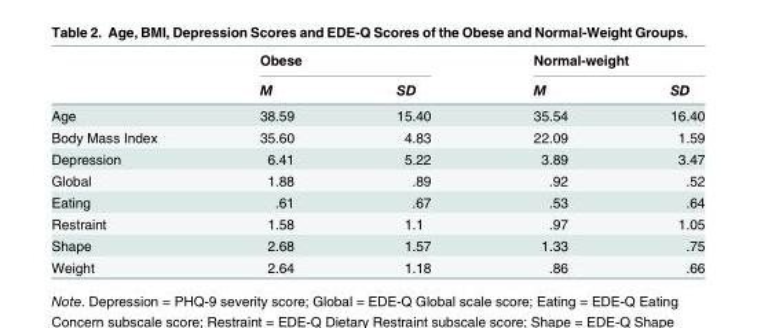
<table><thead><tr><td rowspan="2"></td><td colspan="2">Obese</td><td colspan="2">Normal-weight</td></tr><tr><td>M</td><td>SD</td><td>M</td><td>SD</td></tr></thead><tbody><tr><td>Age</td><td>38.59</td><td>15.40</td><td>35.54</td><td>16.40</td></tr><tr><td>Body Mass Index</td><td>35.60</td><td>4.83</td><td>22.09</td><td>1.59</td></tr><tr><td>Depression</td><td>6.41</td><td>5.22</td><td>3.89</td><td>3.47</td></tr><tr><td>Global</td><td>1.88</td><td>.89</td><td>.92</td><td>.52</td></tr><tr><td>Eating</td><td>.61</td><td>.67</td><td>.53</td><td>.64</td></tr><tr><td>Restraint</td><td>1.58</td><td>1.1</td><td>.97</td><td>1.05</td></tr><tr><td>Shape</td><td>2.68</td><td>1.57</td><td>1.33</td><td>.75</td></tr><tr><td>Weight</td><td>2.64</td><td>1.18</td><td>.86</td><td>.66</td></tr></tbody></table>